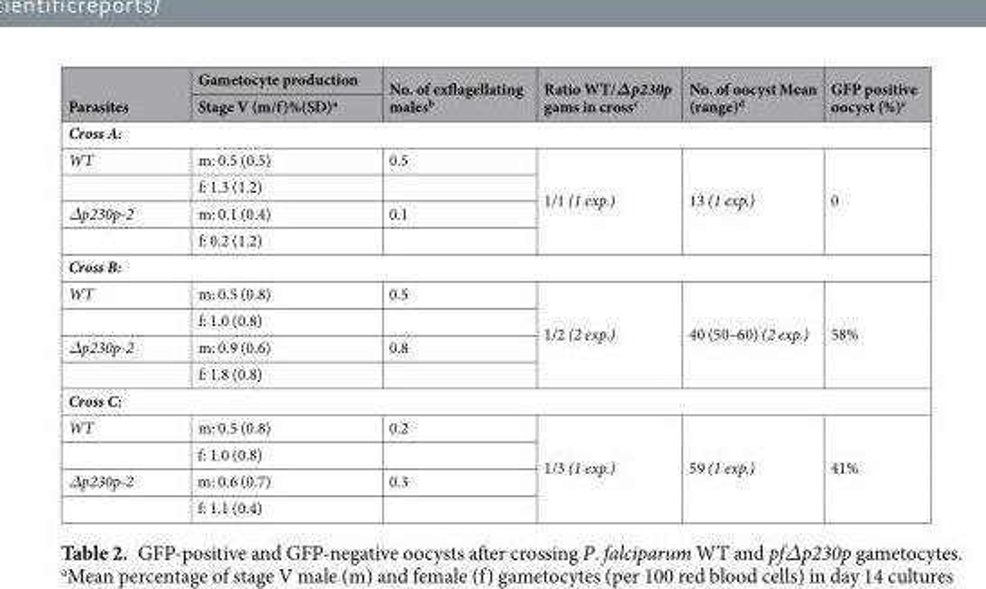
<table><thead><tr><td rowspan="2">Parasites</td><td rowspan="2">Gametocyte production Stage V (m/f)%(SD)<sup>a</sup></td><td rowspan="2">No. of exflagellating males<sup>b</sup></td><td rowspan="2">Ratio WT/Δp230p gams in cross<sup>c</sup></td><td rowspan="2">No. of oocyst Mean (range)<sup>d</sup></td><td rowspan="2">GFP positive oocyst (%)<sup>e</sup></td></tr><tr></tr></thead><tbody><tr><td colspan="6">Cross A:</td></tr><tr><td rowspan="2">WT</td><td>m: 0.5 (0.5)</td><td>0.5</td><td rowspan="4">1/1 (1 exp.)</td><td rowspan="4">13 (1 exp.)</td><td rowspan="4">0</td></tr><tr><td>f: 1.3 (1.2)</td><td></td></tr><tr><td rowspan="2">Δp230p-2</td><td>m: 0.1 (0.4)</td><td>0.1</td></tr><tr><td>f: 0.2 (1.2)</td><td></td></tr><tr><td colspan="6">Cross B:</td></tr><tr><td rowspan="2">WT</td><td>m: 0.5 (0.8)</td><td>0.5</td><td rowspan="4">1/2 (2 exp.)</td><td rowspan="4">40 (50–60) (2 exp.)</td><td rowspan="4">58%</td></tr><tr><td>f: 1.0 (0.8)</td><td></td></tr><tr><td rowspan="2">Δp230p-2</td><td>m: 0.9 (0.6)</td><td>0.8</td></tr><tr><td>f: 1.8 (0.8)</td><td></td></tr><tr><td colspan="6">Cross C:</td></tr><tr><td rowspan="2">WT</td><td>m: 0.5 (0.8)</td><td>0.2</td><td rowspan="4">1/3 (1 exp.)</td><td rowspan="4">59 (1 exp.)</td><td rowspan="4">41%</td></tr><tr><td>f: 1.0 (0.8)</td><td></td></tr><tr><td rowspan="2">Δp230p-2</td><td>m: 0.6 (0.7)</td><td>0.3</td></tr><tr><td>f: 1.1 (0.4)</td><td></td></tr></tbody></table>